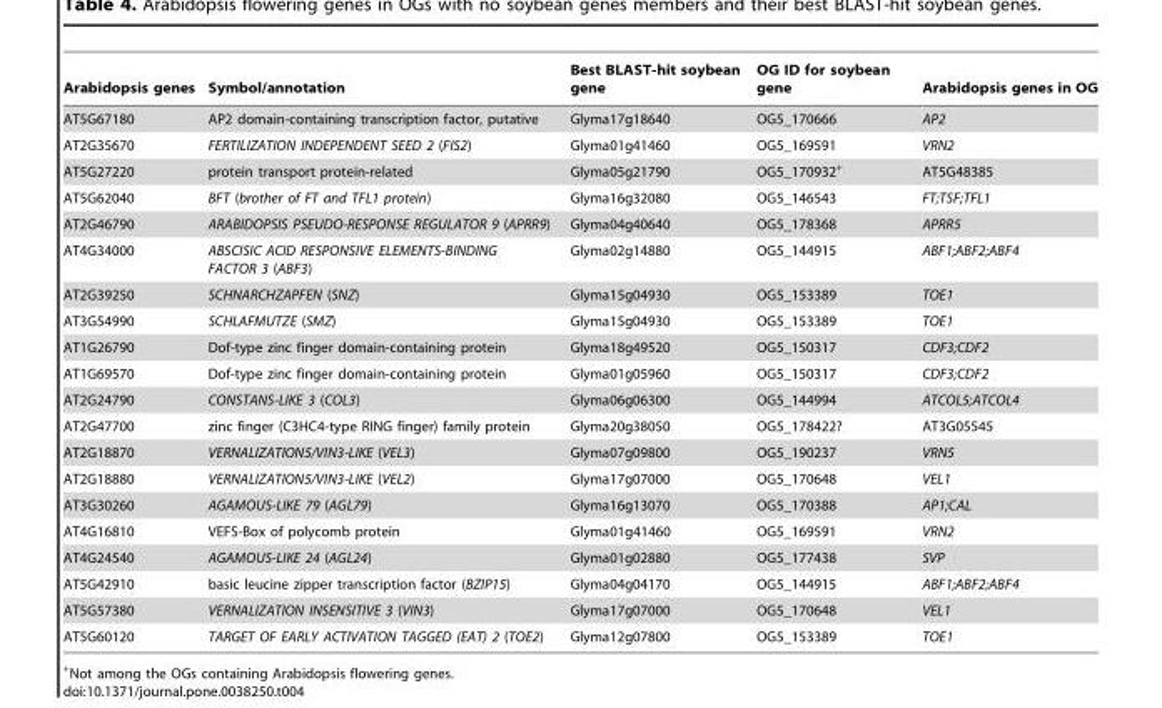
<table><thead><tr><td>Arabidopsis genes</td><td>Symbol/annotation</td><td>Best BLAST-hit soybean gene</td><td>OG ID for soybean gene</td><td>Arabidopsis genes in OG</td></tr></thead><tbody><tr><td>AT5G67180</td><td>AP2 domain-containing transcription factor, putative</td><td>Glyma17g18640</td><td>OG5_170666</td><td>AP2</td></tr><tr><td>AT2G35670</td><td>FERTILIZATION INDEPENDENT SEED 2 (FIS2)</td><td>Glyma01g41460</td><td>OG5_169591</td><td>VRN2</td></tr><tr><td>AT5G27220</td><td>protein transport protein-related</td><td>Glyma05g21790</td><td>OG5_170932+</td><td>AT5G48385</td></tr><tr><td>AT5G62040</td><td>BFT (brother of FT and TFL1 protein)</td><td>Glyma16g32080</td><td>OG5_146543</td><td>FT;TSF;TFL1</td></tr><tr><td>AT2G46790</td><td>ARABIDOPSIS PSEUDO-RESPONSE REGULATOR 9 (APRR9)</td><td>Glyma04g40640</td><td>OG5_178368</td><td>APRR5</td></tr><tr><td>AT4G34000</td><td>ABSCISIC ACID RESPONSIVE ELEMENTS-BINDING FACTOR 3 (ABF3)</td><td>Glyma02g14880</td><td>OG5_144915</td><td>ABF1;ABF2;ABF4</td></tr><tr><td>AT2G39250</td><td>SCHNARCHZAPFEN (SNZ)</td><td>Glyma15g04930</td><td>OG5_153389</td><td>TOE1</td></tr><tr><td>AT3G54990</td><td>SCHLAFMUTZE (SMZ)</td><td>Glyma15g04930</td><td>OG5_153389</td><td>TOE1</td></tr><tr><td>AT1G26790</td><td>Dof-type zinc finger domain-containing protein</td><td>Glyma18g49520</td><td>OG5_150317</td><td>CDF3;CDF2</td></tr><tr><td>AT1G69570</td><td>Dof-type zinc finger domain-containing protein</td><td>Glyma01g05960</td><td>OG5_150317</td><td>CDF3;CDF2</td></tr><tr><td>AT2G24790</td><td>CONSTANS-LIKE 3 (COL3)</td><td>Glyma06g06300</td><td>OG5_144994</td><td>ATCOL5;ATCOL4</td></tr><tr><td>AT2G47700</td><td>zinc finger (C3HC4-type RING finger) family protein</td><td>Glyma20g38050</td><td>OG5_178422?</td><td>AT3G05545</td></tr><tr><td>AT2G18870</td><td>VERNALIZATION5/VIN3-LIKE (VEL3)</td><td>Glyma07g09800</td><td>OG5_190237</td><td>VRN5</td></tr><tr><td>AT2G18880</td><td>VERNALIZATION5/VIN3-LIKE (VEL2)</td><td>Glyma17g07000</td><td>OG5_170648</td><td>VEL1</td></tr><tr><td>AT3G30260</td><td>AGAMOUS-LIKE 79 (AGL79)</td><td>Glyma16g13070</td><td>OG5_170388</td><td>AP1;CAL</td></tr><tr><td>AT4G16810</td><td>VEFS-Box of polycomb protein</td><td>Glyma01g41460</td><td>OG5_169591</td><td>VRN2</td></tr><tr><td>AT4G24540</td><td>AGAMOUS-LIKE 24 (AGL24)</td><td>Glyma01g02880</td><td>OG5_177438</td><td>SVP</td></tr><tr><td>AT5G42910</td><td>basic leucine zipper transcription factor (BZIP15)</td><td>Glyma04g04170</td><td>OG5_144915</td><td>ABF1;ABF2;ABF4</td></tr><tr><td>AT5G57380</td><td>VERNALIZATION INSENSITIVE 3 (VIN3)</td><td>Glyma17g07000</td><td>OG5_170648</td><td>VEL1</td></tr><tr><td>AT5G60120</td><td>TARGET OF EARLY ACTIVATION TAGGED (EAT) 2 (TOE2)</td><td>Glyma12g07800</td><td>OG5_153389</td><td>TOE1</td></tr></tbody></table>